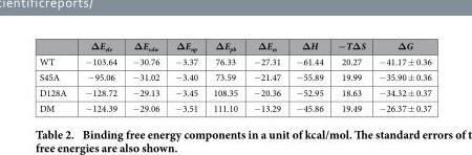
<table><thead><tr><td></td><td>ΔE<sub>ele</sub></td><td>ΔE<sub>vdw</sub></td><td>ΔE<sub>np</sub></td><td>ΔE<sub>pb</sub></td><td>ΔE<sub>es</sub></td><td>ΔH</td><td>−TΔS</td><td>ΔG</td></tr></thead><tbody><tr><td>WT</td><td>− 103.64</td><td>− 30.76</td><td>− 3.37</td><td>76.33</td><td>− 27.31</td><td>− 61.44</td><td>20.27</td><td>− 41.17 ± 0.36</td></tr><tr><td>S45A</td><td>− 95.06</td><td>− 31.02</td><td>− 3.40</td><td>73.59</td><td>− 21.47</td><td>− 55.89</td><td>19.99</td><td>− 35.90 ± 0.36</td></tr><tr><td>D128A</td><td>− 128.72</td><td>− 29.13</td><td>− 3.45</td><td>108.35</td><td>− 20.36</td><td>− 52.95</td><td>18.63</td><td>− 34.32 ± 0.37</td></tr><tr><td>DM</td><td>− 124.39</td><td>− 29.06</td><td>− 3.51</td><td>111.10</td><td>− 13.29</td><td>− 45.86</td><td>19.49</td><td>− 26.37 ± 0.37</td></tr></tbody></table>